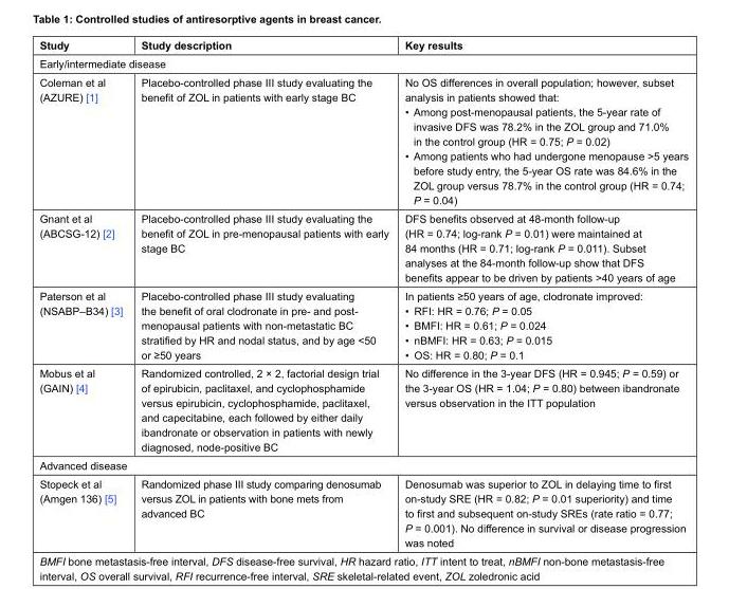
<table><thead><tr><td>Study</td><td>Study description</td><td>Key results</td></tr></thead><tbody><tr><td colspan="3">Early/intermediate disease</td></tr><tr><td>Coleman et al (AZURE) [1]</td><td>Placebo-controlled phase III study evaluating the benefit of ZOL in patients with early stage BC</td><td>No OS differences in overall population; however, subset analysis in patients showed that: • Among post-menopausal patients, the 5-year rate of invasive DFS was 78.2% in the ZOL group and 71.0% in the control group (HR = 0.75; P = 0.02) • Among patients who had undergone menopause &gt;5 years before study entry, the 5-year OS rate was 84.6% in the ZOL group versus 78.7% in the control group (HR = 0.74; P = 0.04)</td></tr><tr><td>Gnant et al (ABCSG-12) [2]</td><td>Placebo-controlled phase III study evaluating the benefit of ZOL in pre-menopausal patients with early stage BC</td><td>DFS benefits observed at 48-month follow-up (HR = 0.74; log-rank P = 0.01) were maintained at 84 months (HR = 0.71; log-rank P = 0.011). Subset analyses at the 84-month follow-up show that DFS benefits appear to be driven by patients &gt;40 years of age</td></tr><tr><td>Paterson et al (NSABP–B34) [3]</td><td>Placebo-controlled phase III study evaluating the benefit of oral clodronate in pre- and post- menopausal patients with non-metastatic BC stratified by HR and nodal status, and by age &lt;50 or ≥50 years</td><td>In patients ≥50 years of age, clodronate improved: • RFI: HR = 0.76; P = 0.05 • BMFI: HR = 0.61; P = 0.024 • nBMFI: HR = 0.63; P = 0.015 • OS: HR = 0.80; P = 0.1</td></tr><tr><td>Mobus et al (GAIN) [4]</td><td>Randomized controlled, 2 × 2, factorial design trial of epirubicin, paclitaxel, and cyclophosphamide versus epirubicin, cyclophosphamide, paclitaxel, and capecitabine, each followed by either daily ibandronate or observation in patients with newly diagnosed, node-positive BC</td><td>No difference in the 3-year DFS (HR = 0.945; P = 0.59) or the 3-year OS (HR = 1.04; P = 0.80) between ibandronate versus observation in the ITT population</td></tr><tr><td colspan="3">Advanced disease</td></tr><tr><td>Stopeck et al (Amgen 136) [5]</td><td>Randomized phase III study comparing denosumab versus ZOL in patients with bone mets from advanced BC</td><td>Denosumab was superior to ZOL in delaying time to first on-study SRE (HR = 0.82; P = 0.01 superiority) and time to first and subsequent on-study SREs (rate ratio = 0.77; P = 0.001). No difference in survival or disease progression was noted</td></tr></tbody></table>